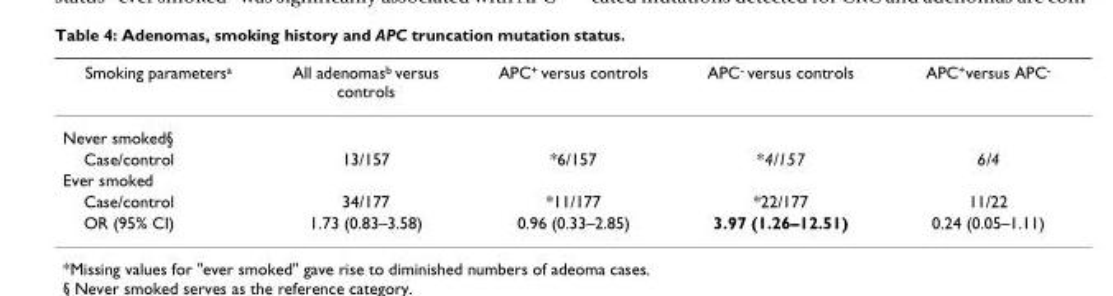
<table><thead><tr><td>Smoking parametersa</td><td>All adenomasb versus controls</td><td>APC+ versus controls</td><td>APC- versus controls</td><td>APC+versus APC-</td></tr></thead><tbody><tr><td colspan="5">Never smoked§</td></tr><tr><td>Case/control</td><td>13/157</td><td>*6/157</td><td>*4/157</td><td>6/4</td></tr><tr><td colspan="5">Ever smoked</td></tr><tr><td>Case/control</td><td>34/177</td><td>*11/177</td><td>*22/177</td><td>11/22</td></tr><tr><td>OR (95% CI)</td><td>1.73 (0.83–3.58)</td><td>0.96 (0.33–2.85)</td><td>3.97 (1.26–12.51)</td><td>0.24 (0.05–1.11)</td></tr></tbody></table>